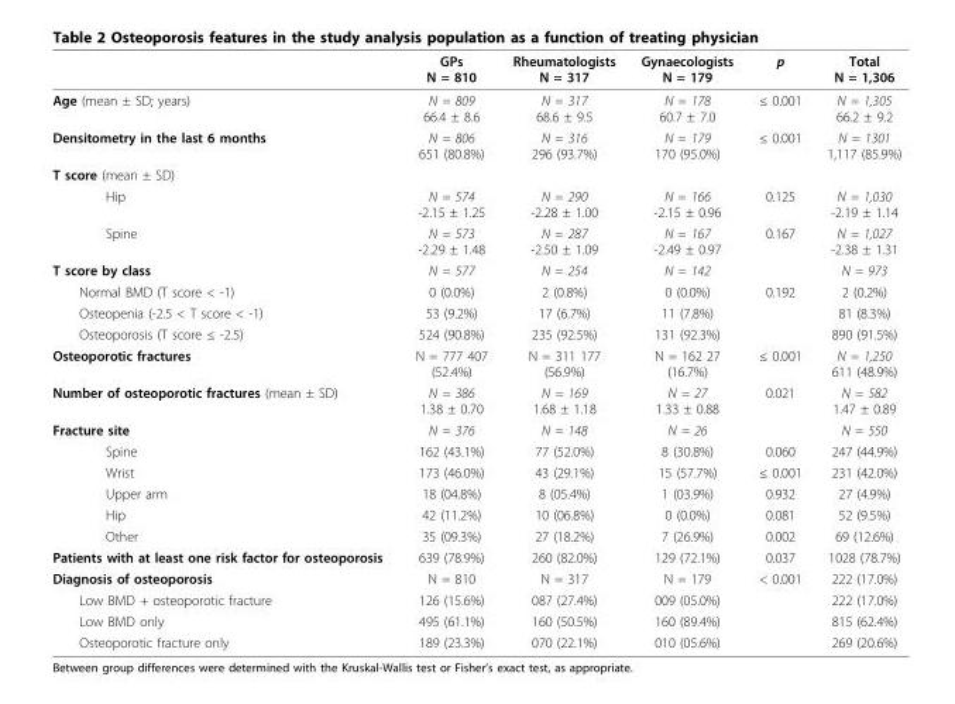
<table><thead><tr><td></td><td>GPs N = 810</td><td>Rheumatologists N = 317</td><td>Gynaecologists N = 179</td><td>p</td><td>Total N = 1,306</td></tr></thead><tbody><tr><td>Age (mean ± SD; years)</td><td>N = 809 66.4 ± 8.6</td><td>N = 317 68.6 ± 9.5</td><td>N = 178 60.7 ± 7.0</td><td>≤ 0.001</td><td>N = 1,305 66.2 ± 9.2</td></tr><tr><td>Densitometry in the last 6 months</td><td>N = 806 651 (80.8%)</td><td>N = 316 296 (93.7%)</td><td>N = 179 170 (95.0%)</td><td>≤ 0.001</td><td>N = 1301 1,117 (85.9%)</td></tr><tr><td colspan="6">T score (mean ± SD)</td></tr><tr><td>Hip</td><td>N = 574 -2.15 ± 1.25</td><td>N = 290 -2.28 ± 1.00</td><td>N = 166 -2.15 ± 0.96</td><td>0.125</td><td>N = 1,030 -2.19 ± 1.14</td></tr><tr><td>Spine</td><td>N = 573 -2.29 ± 1.48</td><td>N = 287 -2.50 ± 1.09</td><td>N = 167 -2.49 ± 0.97</td><td>0.167</td><td>N = 1,027 -2.38 ± 1.31</td></tr><tr><td>T score by class</td><td>N = 577</td><td>N = 254</td><td>N = 142</td><td></td><td>N = 973</td></tr><tr><td>Normal BMD (T score &lt; -1)</td><td>0 (0.0%)</td><td>2 (0.8%)</td><td>0 (0.0%)</td><td>0.192</td><td>2 (0.2%)</td></tr><tr><td>Osteopenia (-2.5 &lt; T score &lt; -1)</td><td>53 (9.2%)</td><td>17 (6.7%)</td><td>11 (7.8%)</td><td></td><td>81 (8.3%)</td></tr><tr><td>Osteoporosis (T score ≤ -2.5)</td><td>524 (90.8%)</td><td>235 (92.5%)</td><td>131 (92.3%)</td><td></td><td>890 (91.5%)</td></tr><tr><td>Osteoporotic fractures</td><td>N = 777 407 (52.4%)</td><td>N = 311 177 (56.9%)</td><td>N = 162 27 (16.7%)</td><td>≤ 0.001</td><td>N = 1,250 611 (48.9%)</td></tr><tr><td>Number of osteoporotic fractures (mean ± SD)</td><td>N = 386 1.38 ± 0.70</td><td>N = 169 1.68 ± 1.18</td><td>N = 27 1.33 ± 0.88</td><td>0.021</td><td>N = 582 1.47 ± 0.89</td></tr><tr><td>Fracture site</td><td>N = 376</td><td>N = 148</td><td>N = 26</td><td></td><td>N = 550</td></tr><tr><td>Spine</td><td>162 (43.1%)</td><td>77 (52.0%)</td><td>8 (30.8%)</td><td>0.060</td><td>247 (44.9%)</td></tr><tr><td>Wrist</td><td>173 (46.0%)</td><td>43 (29.1%)</td><td>15 (57.7%)</td><td>≤ 0.001</td><td>231 (42.0%)</td></tr><tr><td>Upper arm</td><td>18 (04.8%)</td><td>8 (05.4%)</td><td>1 (03.9%)</td><td>0.932</td><td>27 (4.9%)</td></tr><tr><td>Hip</td><td>42 (11.2%)</td><td>10 (06.8%)</td><td>0 (0.0%)</td><td>0.081</td><td>52 (9.5%)</td></tr><tr><td>Other</td><td>35 (09.3%)</td><td>27 (18.2%)</td><td>7 (26.9%)</td><td>0.002</td><td>69 (12.6%)</td></tr><tr><td>Patients with at least one risk factor for osteoporosis</td><td>639 (78.9%)</td><td>260 (82.0%)</td><td>129 (72.1%)</td><td>0.037</td><td>1028 (78.7%)</td></tr><tr><td>Diagnosis of osteoporosis</td><td>N = 810</td><td>N = 317</td><td>N = 179</td><td>&lt; 0.001</td><td>222 (17.0%)</td></tr><tr><td>Low BMD + osteoporotic fracture</td><td>126 (15.6%)</td><td>087 (27.4%)</td><td>009 (05.0%)</td><td></td><td>222 (17.0%)</td></tr><tr><td>Low BMD only</td><td>495 (61.1%)</td><td>160 (50.5%)</td><td>160 (89.4%)</td><td></td><td>815 (62.4%)</td></tr><tr><td>Osteoporotic fracture only</td><td>189 (23.3%)</td><td>070 (22.1%)</td><td>010 (05.6%)</td><td></td><td>269 (20.6%)</td></tr></tbody></table>